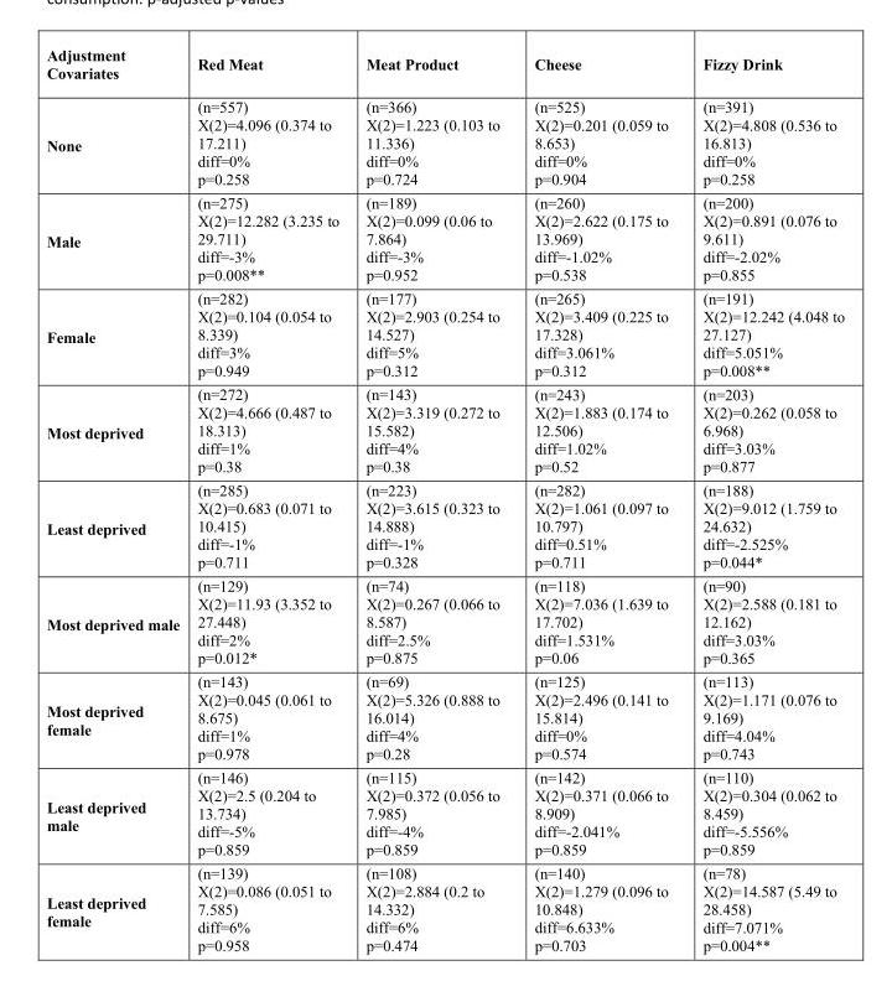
<table><thead><tr><td>Adjustment Covariates</td><td>Red Meat</td><td>Meat Product</td><td>Cheese</td><td>Fizzy Drink</td></tr></thead><tbody><tr><td>None</td><td>(n=557) X(2)=4.096 (0.374 to 17.211) diff=0% p=0.258</td><td>(n=366) X(2)=1.223 (0.103 to 11.336) diff=0% p=0.724</td><td>(n=525) X(2)=0.201 (0.059 to 8.653) diff=0% p=0.904</td><td>(n=391) X(2)=4.808 (0.536 to 16.813) diff=0% p=0.258</td></tr><tr><td>Male</td><td>(n=275) X(2)=12.282 (3.235 to 29.711) diff=-3% p=0.008**</td><td>(n=189) X(2)=0.099 (0.06 to 7.864) diff=-3% p=0.952</td><td>(n=260) X(2)=2.622 (0.175 to 13.969) diff=-1.02% p=0.538</td><td>(n=200) X(2)=0.891 (0.076 to 9.611) diff=-2.02% p=0.855</td></tr><tr><td>Female</td><td>(n=282) X(2)=0.104 (0.054 to 8.339) diff=3% p=0.949</td><td>(n=177) X(2)=2.903 (0.254 to 14.527) diff=5% p=0.312</td><td>(n=265) X(2)=3.409 (0.225 to 17.328) diff=3.061% p=0.312</td><td>(n=191) X(2)=12.242 (4.048 to 27.127) diff=5.051% p=0.008**</td></tr><tr><td>Most deprived</td><td>(n=272) X(2)=4.666 (0.487 to 18.313) diff=1% p=0.38</td><td>(n=143) X(2)=3.319 (0.272 to 15.582) diff=4% p=0.38</td><td>(n=243) X(2)=1.883 (0.174 to 12.506) diff=1.02% p=0.52</td><td>(n=203) X(2)=0.262 (0.058 to 6.968) diff=3.03% p=0.877</td></tr><tr><td>Least deprived</td><td>(n=285) X(2)=0.683 (0.071 to 10.415) diff=-1% p=0.711</td><td>(n=223) X(2)=3.615 (0.323 to 14.888) diff=-1% p=0.328</td><td>(n=282) X(2)=1.061 (0.097 to 10.797) diff=0.51% p=0.711</td><td>(n=188) X(2)=9.012 (1.759 to 24.632) diff=-2.525% p=0.044*</td></tr><tr><td>Most deprived male</td><td>(n=129) X(2)=11.93 (3.352 to 27.448) diff=2% p=0.012*</td><td>(n=74) X(2)=0.267 (0.066 to 8.587) diff=2.5% p=0.875</td><td>(n=118) X(2)=7.036 (1.639 to 17.702) diff=1.531% p=0.06</td><td>(n=90) X(2)=2.588 (0.181 to 12.162) diff=3.03% p=0.365</td></tr><tr><td>Most deprived female</td><td>(n=143) X(2)=0.045 (0.061 to 8.675) diff=1% p=0.978</td><td>(n=69) X(2)=5.326 (0.888 to 16.014) diff=4% p=0.28</td><td>(n=125) X(2)=2.496 (0.141 to 15.814) diff=0% p=0.574</td><td>(n=113) X(2)=1.171 (0.076 to 9.169) diff=4.04% p=0.743</td></tr><tr><td>Least deprived male</td><td>(n=146) X(2)=2.5 (0.204 to 13.734) diff=-5% p=0.859</td><td>(n=115) X(2)=0.372 (0.056 to 7.985) diff=-4% p=0.859</td><td>(n=142) X(2)=0.371 (0.066 to 8.909) diff=-2.041% p=0.859</td><td>(n=110) X(2)=0.304 (0.062 to 8.459) diff=-5.556% p=0.859</td></tr><tr><td>Least deprived female</td><td>(n=139) X(2)=0.086 (0.051 to 7.585) diff=6% p=0.958</td><td>(n=108) X(2)=2.884 (0.2 to 14.332) diff=6% p=0.474</td><td>(n=140) X(2)=1.279 (0.096 to 10.848) diff=6.633% p=0.703</td><td>(n=78) X(2)=14.587 (5.49 to 28.458) diff=7.071% p=0.004**</td></tr></tbody></table>